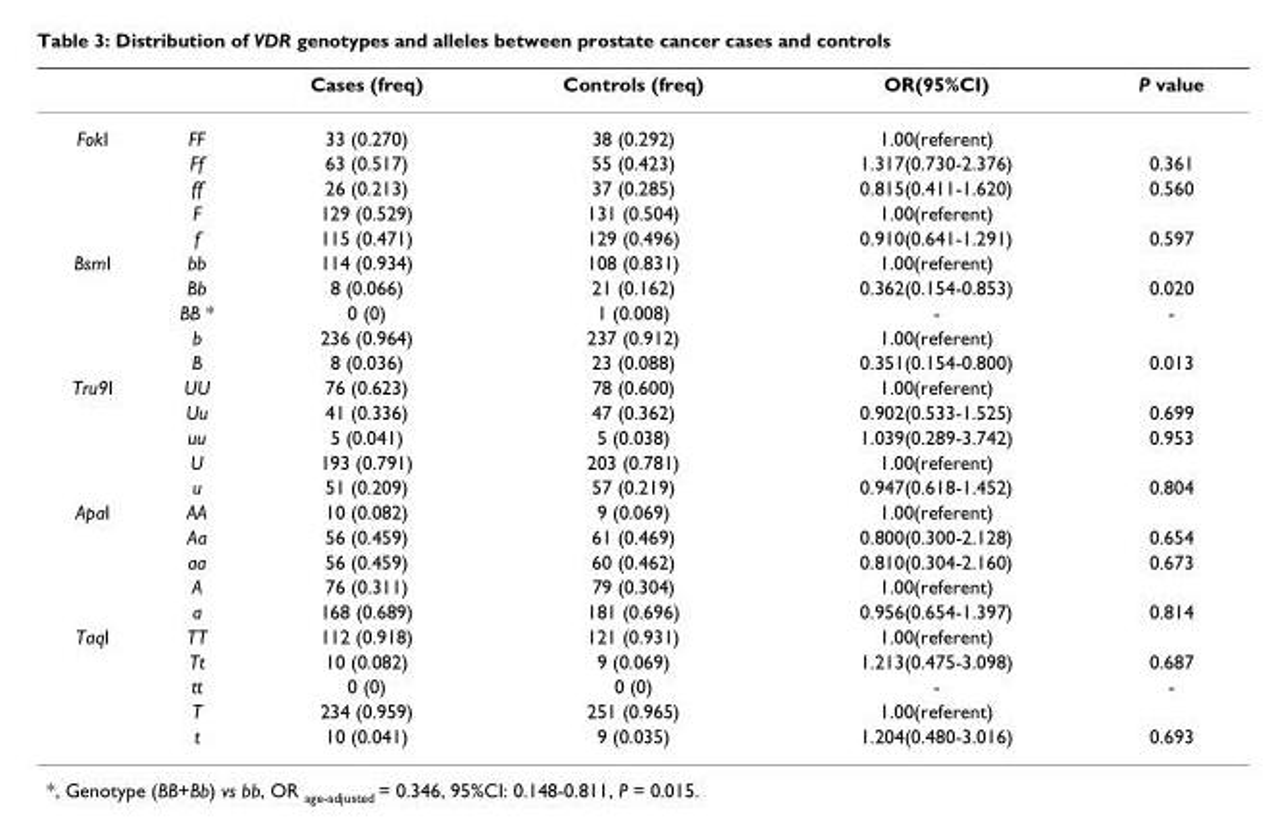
<table><thead><tr><td></td><td></td><td>Cases (freq)</td><td>Controls (freq)</td><td>OR(95%CI)</td><td>P value</td></tr></thead><tbody><tr><td rowspan="5">FokI</td><td>FF</td><td>33 (0.270)</td><td>38 (0.292)</td><td>1.00(referent)</td><td></td></tr><tr><td>Ff</td><td>63 (0.517)</td><td>55 (0.423)</td><td>1.317(0.730-2.376)</td><td>0.361</td></tr><tr><td>ff</td><td>26 (0.213)</td><td>37 (0.285)</td><td>0.815(0.411-1.620)</td><td>0.560</td></tr><tr><td>F</td><td>129 (0.529)</td><td>131 (0.504)</td><td>1.00(referent)</td><td></td></tr><tr><td>f</td><td>115 (0.471)</td><td>129 (0.496)</td><td>0.910(0.641-1.291)</td><td>0.597</td></tr><tr><td rowspan="5">BsmI</td><td>bb</td><td>114 (0.934)</td><td>108 (0.831)</td><td>1.00(referent)</td><td></td></tr><tr><td>Bb</td><td>8 (0.066)</td><td>21 (0.162)</td><td>0.362(0.154-0.853)</td><td>0.020</td></tr><tr><td>BB *</td><td>0 (0)</td><td>1 (0.008)</td><td>-</td><td>-</td></tr><tr><td>b</td><td>236 (0.964)</td><td>237 (0.912)</td><td>1.00(referent)</td><td></td></tr><tr><td>B</td><td>8 (0.036)</td><td>23 (0.088)</td><td>0.351(0.154-0.800)</td><td>0.013</td></tr><tr><td rowspan="5">Tru9I</td><td>UU</td><td>76 (0.623)</td><td>78 (0.600)</td><td>1.00(referent)</td><td></td></tr><tr><td>Uu</td><td>41 (0.336)</td><td>47 (0.362)</td><td>0.902(0.533-1.525)</td><td>0.699</td></tr><tr><td>uu</td><td>5 (0.041)</td><td>5 (0.038)</td><td>1.039(0.289-3.742)</td><td>0.953</td></tr><tr><td>U</td><td>193 (0.791)</td><td>203 (0.781)</td><td>1.00(referent)</td><td></td></tr><tr><td>u</td><td>51 (0.209)</td><td>57 (0.219)</td><td>0.947(0.618-1.452)</td><td>0.804</td></tr><tr><td rowspan="5">ApaI</td><td>AA</td><td>10 (0.082)</td><td>9 (0.069)</td><td>1.00(referent)</td><td></td></tr><tr><td>Aa</td><td>56 (0.459)</td><td>61 (0.469)</td><td>0.800(0.300-2.128)</td><td>0.654</td></tr><tr><td>aa</td><td>56 (0.459)</td><td>60 (0.462)</td><td>0.810(0.304-2.160)</td><td>0.673</td></tr><tr><td>A</td><td>76 (0.311)</td><td>79 (0.304)</td><td>1.00(referent)</td><td></td></tr><tr><td>a</td><td>168 (0.689)</td><td>181 (0.696)</td><td>0.956(0.654-1.397)</td><td>0.814</td></tr><tr><td rowspan="5">TaqI</td><td>TT</td><td>112 (0.918)</td><td>121 (0.931)</td><td>1.00(referent)</td><td></td></tr><tr><td>Tt</td><td>10 (0.082)</td><td>9 (0.069)</td><td>1.213(0.475-3.098)</td><td>0.687</td></tr><tr><td>tt</td><td>0 (0)</td><td>0 (0)</td><td>-</td><td>-</td></tr><tr><td>T</td><td>234 (0.959)</td><td>251 (0.965)</td><td>1.00(referent)</td><td></td></tr><tr><td>t</td><td>10 (0.041)</td><td>9 (0.035)</td><td>1.204(0.480-3.016)</td><td>0.693</td></tr></tbody></table>